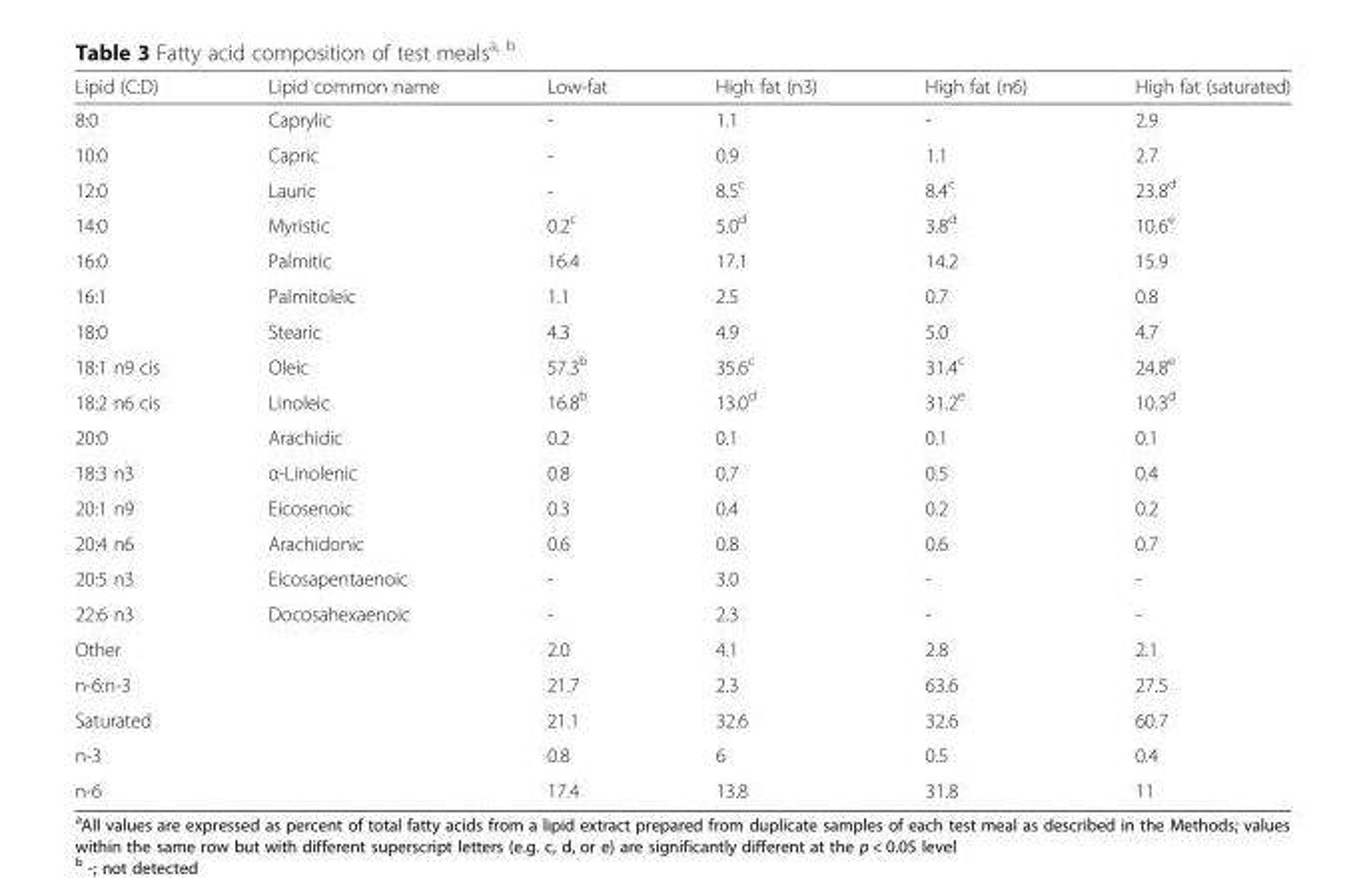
<table><thead><tr><td>Lipid (C:D)</td><td>Lipid common name</td><td>Low-fat</td><td>High fat (n3)</td><td>High fat (n6)</td><td>High fat (saturated)</td></tr></thead><tbody><tr><td>8:0</td><td>Caprylic</td><td>-</td><td>1.1</td><td>-</td><td>2.9</td></tr><tr><td>10:0</td><td>Capric</td><td>-</td><td>0.9</td><td>1.1</td><td>2.7</td></tr><tr><td>12:0</td><td>Lauric</td><td>-</td><td>8.5<sup>c</sup></td><td>8.4<sup>c</sup></td><td>23.8<sup>d</sup></td></tr><tr><td>14:0</td><td>Myristic</td><td>0.2<sup>c</sup></td><td>5.0<sup>d</sup></td><td>3.8<sup>d</sup></td><td>10.6<sup>e</sup></td></tr><tr><td>16:0</td><td>Palmitic</td><td>16.4</td><td>17.1</td><td>14.2</td><td>15.9</td></tr><tr><td>16:1</td><td>Palmitoleic</td><td>1.1</td><td>2.5</td><td>0.7</td><td>0.8</td></tr><tr><td>18:0</td><td>Stearic</td><td>4.3</td><td>4.9</td><td>5.0</td><td>4.7</td></tr><tr><td>18:1 n9 cis</td><td>Oleic</td><td>57.3<sup>b</sup></td><td>35.6<sup>c</sup></td><td>31.4<sup>c</sup></td><td>24.8<sup>e</sup></td></tr><tr><td>18:2 n6 cis</td><td>Linoleic</td><td>16.8<sup>b</sup></td><td>13.0<sup>d</sup></td><td>31.2<sup>e</sup></td><td>10.3<sup>d</sup></td></tr><tr><td>20:0</td><td>Arachidic</td><td>0.2</td><td>0.1</td><td>0.1</td><td>0.1</td></tr><tr><td>18:3 n3</td><td>α-Linolenic</td><td>0.8</td><td>0.7</td><td>0.5</td><td>0.4</td></tr><tr><td>20:1 n9</td><td>Eicosenoic</td><td>0.3</td><td>0.4</td><td>0.2</td><td>0.2</td></tr><tr><td>20:4 n6</td><td>Arachidonic</td><td>0.6</td><td>0.8</td><td>0.6</td><td>0.7</td></tr><tr><td>20:5 n3</td><td>Eicosapentaenoic</td><td>-</td><td>3.0</td><td>-</td><td>-</td></tr><tr><td>22:6 n3</td><td>Docosahexaenoic</td><td>-</td><td>2.3</td><td>-</td><td>-</td></tr><tr><td>Other</td><td></td><td>2.0</td><td>4.1</td><td>2.8</td><td>2.1</td></tr><tr><td>n-6:n-3</td><td></td><td>21.7</td><td>2.3</td><td>63.6</td><td>27.5</td></tr><tr><td>Saturated</td><td></td><td>21.1</td><td>32.6</td><td>32.6</td><td>60.7</td></tr><tr><td>n-3</td><td></td><td>0.8</td><td>6</td><td>0.5</td><td>0.4</td></tr><tr><td>n-6</td><td></td><td>17.4</td><td>13.8</td><td>31.8</td><td>11</td></tr></tbody></table>